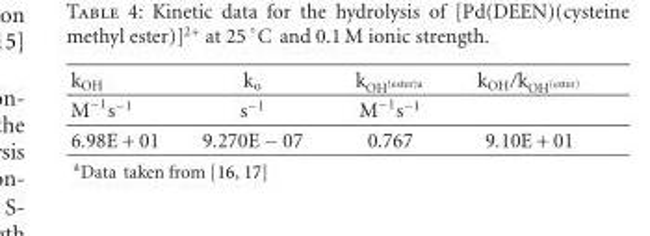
<table><thead><tr><td>k<sub>OH</sub></td><td>k<sub>o</sub></td><td>k<sub>OH</sub><sup><sub>(ester)a</sub></sup></td><td>k<sub>OH</sub>/k<sub>OH</sub><sup><sub>(ester)</sub></sup></td></tr></thead><tbody><tr><td>M<sup>−1</sup>s<sup>−1</sup></td><td>s<sup>−1</sup></td><td>M<sup>−1</sup>s<sup>−1</sup></td><td></td></tr><tr><td>6.98E + 01</td><td>9.270E − 07</td><td>0.767</td><td>9.10E + 01</td></tr></tbody></table>